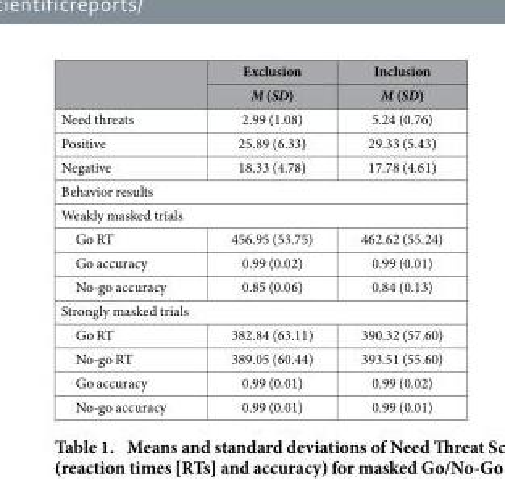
<table><thead><tr><td rowspan="2"></td><td rowspan="2">Exclusion M (SD)</td><td rowspan="2">Inclusion M (SD)</td></tr><tr></tr></thead><tbody><tr><td>Need threats</td><td>2.99 (1.08)</td><td>5.24 (0.76)</td></tr><tr><td>Positive</td><td>25.89 (6.33)</td><td>29.33 (5.43)</td></tr><tr><td>Negative</td><td>18.33 (4.78)</td><td>17.78 (4.61)</td></tr><tr><td colspan="3">Behavior results</td></tr><tr><td colspan="3">Weakly masked trials</td></tr><tr><td>Go RT</td><td>456.95 (53.75)</td><td>462.62 (55.24)</td></tr><tr><td>Go accuracy</td><td>0.99 (0.02)</td><td>0.99 (0.01)</td></tr><tr><td>No-go accuracy</td><td>0.85 (0.06)</td><td>0.84 (0.13)</td></tr><tr><td colspan="3">Strongly masked trials</td></tr><tr><td>Go RT</td><td>382.84 (63.11)</td><td>390.32 (57.60)</td></tr><tr><td>No-go RT</td><td>389.05 (60.44)</td><td>393.51 (55.60)</td></tr><tr><td>Go accuracy</td><td>0.99 (0.01)</td><td>0.99 (0.02)</td></tr><tr><td>No-go accuracy</td><td>0.99 (0.01)</td><td>0.99 (0.01)</td></tr></tbody></table>